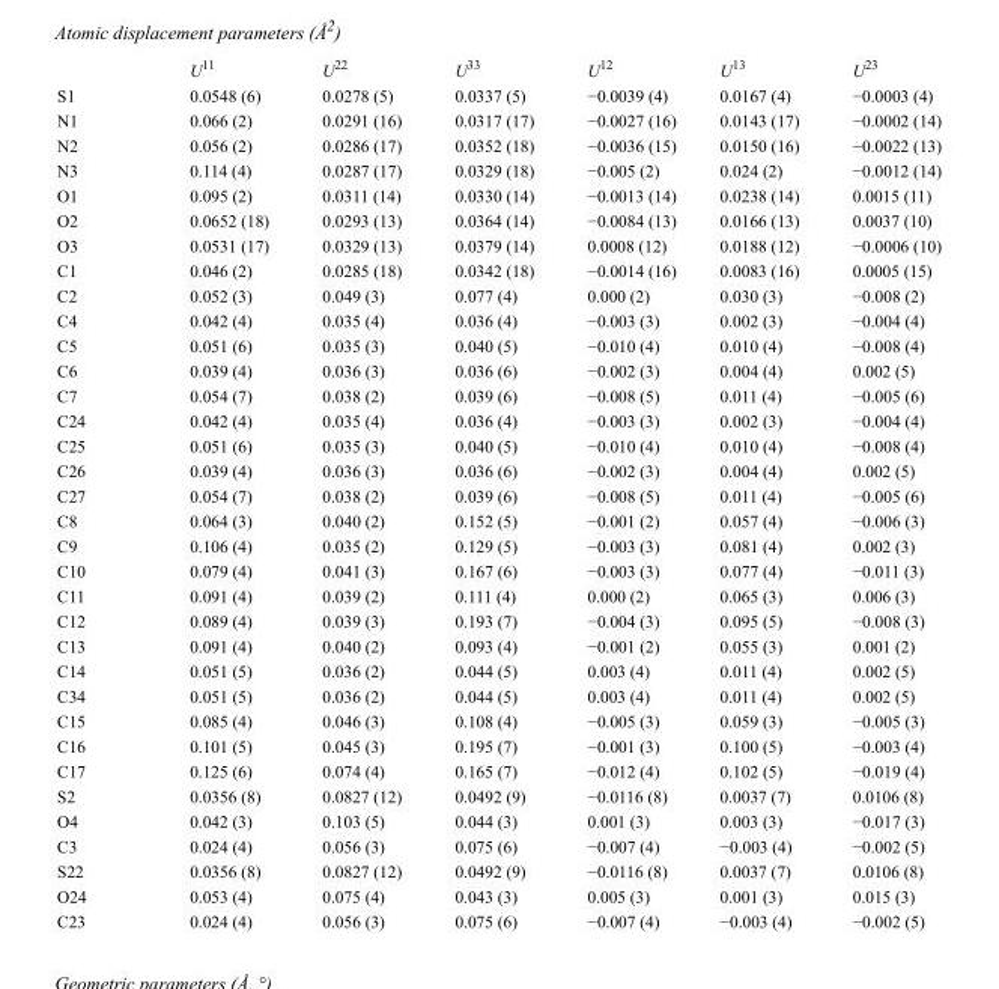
<table><thead><tr><td></td><td>U<sup>11</sup></td><td>U<sup>22</sup></td><td>U<sup>33</sup></td><td>U<sup>12</sup></td><td>U<sup>13</sup></td><td>U<sup>23</sup></td></tr></thead><tbody><tr><td>S1</td><td>0.0548 (6)</td><td>0.0278 (5)</td><td>0.0337 (5)</td><td>−0.0039 (4)</td><td>0.0167 (4)</td><td>−0.0003 (4)</td></tr><tr><td>N1</td><td>0.066 (2)</td><td>0.0291 (16)</td><td>0.0317 (17)</td><td>−0.0027 (16)</td><td>0.0143 (17)</td><td>−0.0002 (14)</td></tr><tr><td>N2</td><td>0.056 (2)</td><td>0.0286 (17)</td><td>0.0352 (18)</td><td>−0.0036 (15)</td><td>0.0150 (16)</td><td>−0.0022 (13)</td></tr><tr><td>N3</td><td>0.114 (4)</td><td>0.0287 (17)</td><td>0.0329 (18)</td><td>−0.005 (2)</td><td>0.024 (2)</td><td>−0.0012 (14)</td></tr><tr><td>O1</td><td>0.095 (2)</td><td>0.0311 (14)</td><td>0.0330 (14)</td><td>−0.0013 (14)</td><td>0.0238 (14)</td><td>0.0015 (11)</td></tr><tr><td>O2</td><td>0.0652 (18)</td><td>0.0293 (13)</td><td>0.0364 (14)</td><td>−0.0084 (13)</td><td>0.0166 (13)</td><td>0.0037 (10)</td></tr><tr><td>O3</td><td>0.0531 (17)</td><td>0.0329 (13)</td><td>0.0379 (14)</td><td>0.0008 (12)</td><td>0.0188 (12)</td><td>−0.0006 (10)</td></tr><tr><td>C1</td><td>0.046 (2)</td><td>0.0285 (18)</td><td>0.0342 (18)</td><td>−0.0014 (16)</td><td>0.0083 (16)</td><td>0.0005 (15)</td></tr><tr><td>C2</td><td>0.052 (3)</td><td>0.049 (3)</td><td>0.077 (4)</td><td>0.000 (2)</td><td>0.030 (3)</td><td>−0.008 (2)</td></tr><tr><td>C4</td><td>0.042 (4)</td><td>0.035 (4)</td><td>0.036 (4)</td><td>−0.003 (3)</td><td>0.002 (3)</td><td>−0.004 (4)</td></tr><tr><td>C5</td><td>0.051 (6)</td><td>0.035 (3)</td><td>0.040 (5)</td><td>−0.010 (4)</td><td>0.010 (4)</td><td>−0.008 (4)</td></tr><tr><td>C6</td><td>0.039 (4)</td><td>0.036 (3)</td><td>0.036 (6)</td><td>−0.002 (3)</td><td>0.004 (4)</td><td>0.002 (5)</td></tr><tr><td>C7</td><td>0.054 (7)</td><td>0.038 (2)</td><td>0.039 (6)</td><td>−0.008 (5)</td><td>0.011 (4)</td><td>−0.005 (6)</td></tr><tr><td>C24</td><td>0.042 (4)</td><td>0.035 (4)</td><td>0.036 (4)</td><td>−0.003 (3)</td><td>0.002 (3)</td><td>−0.004 (4)</td></tr><tr><td>C25</td><td>0.051 (6)</td><td>0.035 (3)</td><td>0.040 (5)</td><td>−0.010 (4)</td><td>0.010 (4)</td><td>−0.008 (4)</td></tr><tr><td>C26</td><td>0.039 (4)</td><td>0.036 (3)</td><td>0.036 (6)</td><td>−0.002 (3)</td><td>0.004 (4)</td><td>0.002 (5)</td></tr><tr><td>C27</td><td>0.054 (7)</td><td>0.038 (2)</td><td>0.039 (6)</td><td>−0.008 (5)</td><td>0.011 (4)</td><td>−0.005 (6)</td></tr><tr><td>C8</td><td>0.064 (3)</td><td>0.040 (2)</td><td>0.152 (5)</td><td>−0.001 (2)</td><td>0.057 (4)</td><td>−0.006 (3)</td></tr><tr><td>C9</td><td>0.106 (4)</td><td>0.035 (2)</td><td>0.129 (5)</td><td>−0.003 (3)</td><td>0.081 (4)</td><td>0.002 (3)</td></tr><tr><td>C10</td><td>0.079 (4)</td><td>0.041 (3)</td><td>0.167 (6)</td><td>−0.003 (3)</td><td>0.077 (4)</td><td>−0.011 (3)</td></tr><tr><td>C11</td><td>0.091 (4)</td><td>0.039 (2)</td><td>0.111 (4)</td><td>0.000 (2)</td><td>0.065 (3)</td><td>0.006 (3)</td></tr><tr><td>C12</td><td>0.089 (4)</td><td>0.039 (3)</td><td>0.193 (7)</td><td>−0.004 (3)</td><td>0.095 (5)</td><td>−0.008 (3)</td></tr><tr><td>C13</td><td>0.091 (4)</td><td>0.040 (2)</td><td>0.093 (4)</td><td>−0.001 (2)</td><td>0.055 (3)</td><td>0.001 (2)</td></tr><tr><td>C14</td><td>0.051 (5)</td><td>0.036 (2)</td><td>0.044 (5)</td><td>0.003 (4)</td><td>0.011 (4)</td><td>0.002 (5)</td></tr><tr><td>C34</td><td>0.051 (5)</td><td>0.036 (2)</td><td>0.044 (5)</td><td>0.003 (4)</td><td>0.011 (4)</td><td>0.002 (5)</td></tr><tr><td>C15</td><td>0.085 (4)</td><td>0.046 (3)</td><td>0.108 (4)</td><td>−0.005 (3)</td><td>0.059 (3)</td><td>−0.005 (3)</td></tr><tr><td>C16</td><td>0.101 (5)</td><td>0.045 (3)</td><td>0.195 (7)</td><td>−0.001 (3)</td><td>0.100 (5)</td><td>−0.003 (4)</td></tr><tr><td>C17</td><td>0.125 (6)</td><td>0.074 (4)</td><td>0.165 (7)</td><td>−0.012 (4)</td><td>0.102 (5)</td><td>−0.019 (4)</td></tr><tr><td>S2</td><td>0.0356 (8)</td><td>0.0827 (12)</td><td>0.0492 (9)</td><td>−0.0116 (8)</td><td>0.0037 (7)</td><td>0.0106 (8)</td></tr><tr><td>O4</td><td>0.042 (3)</td><td>0.103 (5)</td><td>0.044 (3)</td><td>0.001 (3)</td><td>0.003 (3)</td><td>−0.017 (3)</td></tr><tr><td>C3</td><td>0.024 (4)</td><td>0.056 (3)</td><td>0.075 (6)</td><td>−0.007 (4)</td><td>−0.003 (4)</td><td>−0.002 (5)</td></tr><tr><td>S22</td><td>0.0356 (8)</td><td>0.0827 (12)</td><td>0.0492 (9)</td><td>−0.0116 (8)</td><td>0.0037 (7)</td><td>0.0106 (8)</td></tr><tr><td>O24</td><td>0.053 (4)</td><td>0.075 (4)</td><td>0.043 (3)</td><td>0.005 (3)</td><td>0.001 (3)</td><td>0.015 (3)</td></tr><tr><td>C23</td><td>0.024 (4)</td><td>0.056 (3)</td><td>0.075 (6)</td><td>−0.007 (4)</td><td>−0.003 (4)</td><td>−0.002 (5)</td></tr></tbody></table>